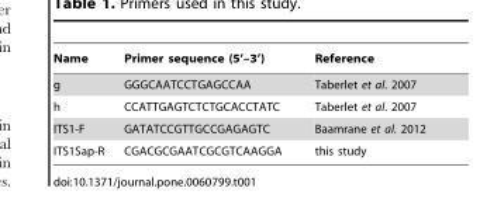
<table><thead><tr><td>Name</td><td>Primer sequence (5’–3’)</td><td>Reference</td></tr></thead><tbody><tr><td>g</td><td>GGGCAATCCTGAGCCAA</td><td>Taberlet et al. 2007</td></tr><tr><td>h</td><td>CCATTGAGTCTCTGCACCTATC</td><td>Taberlet et al. 2007</td></tr><tr><td>ITS1-F</td><td>GATATCCGTTGCCGAGAGTC</td><td>Baamrane et al. 2012</td></tr><tr><td>ITS1Sap-R</td><td>CGACGCGAATCGCGTCAAGGA</td><td>this study</td></tr></tbody></table>